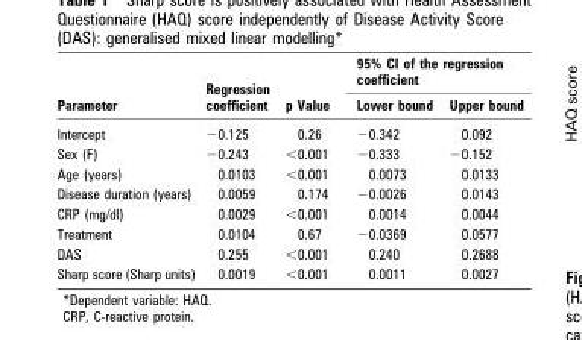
<table><thead><tr><td rowspan="2">Parameter</td><td rowspan="2">Regression coefficient</td><td rowspan="2">p Value</td><td colspan="2">95% CI of the regression coefficient</td></tr><tr><td>Lower bound</td><td>Upper bound</td></tr></thead><tbody><tr><td>Intercept</td><td>−0.125</td><td>0.26</td><td>−0.342</td><td>0.092</td></tr><tr><td>Sex (F)</td><td>−0.243</td><td>&lt;0.001</td><td>−0.333</td><td>−0.152</td></tr><tr><td>Age (years)</td><td>0.0103</td><td>&lt;0.001</td><td>0.0073</td><td>0.0133</td></tr><tr><td>Disease duration (years)</td><td>0.0059</td><td>0.174</td><td>−0.0026</td><td>0.0143</td></tr><tr><td>CRP (mg/dl)</td><td>0.0029</td><td>&lt;0.001</td><td>0.0014</td><td>0.0044</td></tr><tr><td>Treatment</td><td>0.0104</td><td>0.67</td><td>−0.0369</td><td>0.0577</td></tr><tr><td>DAS</td><td>0.255</td><td>&lt;0.001</td><td>0.240</td><td>0.2688</td></tr><tr><td>Sharp score (Sharp units)</td><td>0.0019</td><td>&lt;0.001</td><td>0.0011</td><td>0.0027</td></tr></tbody></table>